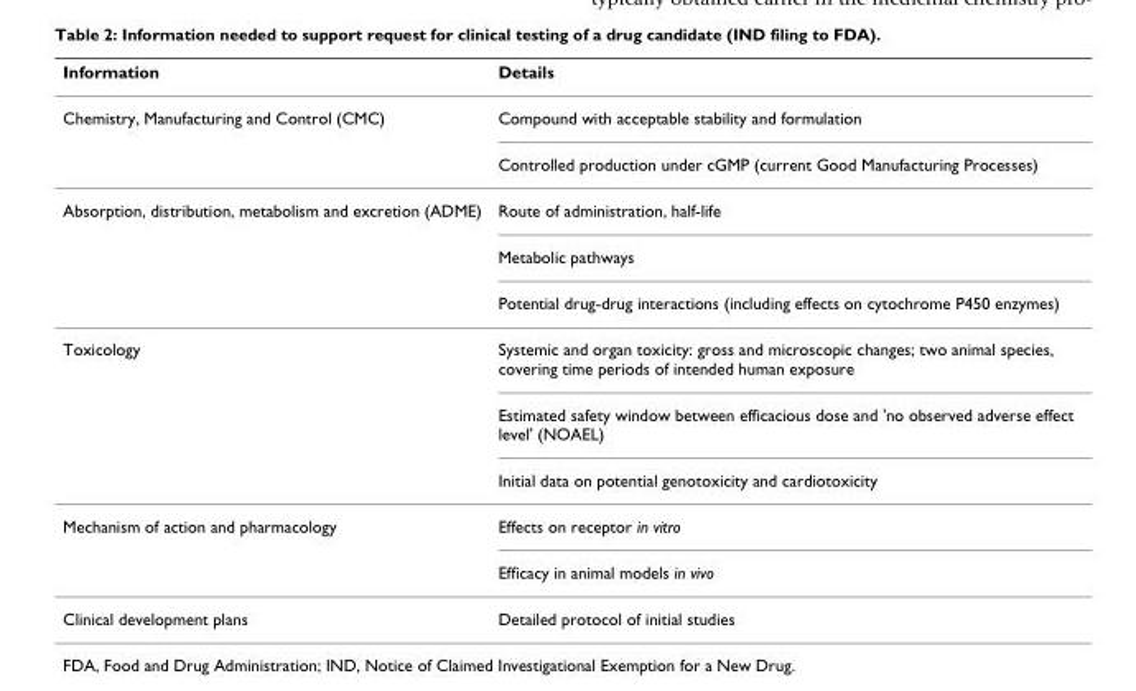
<table><thead><tr><td>Information</td><td>Details</td></tr></thead><tbody><tr><td rowspan="2">Chemistry, Manufacturing and Control (CMC)</td><td>Compound with acceptable stability and formulation</td></tr><tr><td>Controlled production under cGMP (current Good Manufacturing Processes)</td></tr><tr><td rowspan="3">Absorption, distribution, metabolism and excretion (ADME)</td><td>Route of administration, half-life</td></tr><tr><td>Metabolic pathways</td></tr><tr><td>Potential drug-drug interactions (including effects on cytochrome P450 enzymes)</td></tr><tr><td rowspan="3">Toxicology</td><td>Systemic and organ toxicity: gross and microscopic changes; two animal species, covering time periods of intended human exposure</td></tr><tr><td>Estimated safety window between efficacious dose and &#x27;no observed adverse effect level&#x27; (NOAEL)</td></tr><tr><td>Initial data on potential genotoxicity and cardiotoxicity</td></tr><tr><td rowspan="2">Mechanism of action and pharmacology</td><td>Effects on receptor in vitro</td></tr><tr><td>Efficacy in animal models in vivo</td></tr><tr><td>Clinical development plans</td><td>Detailed protocol of initial studies</td></tr></tbody></table>